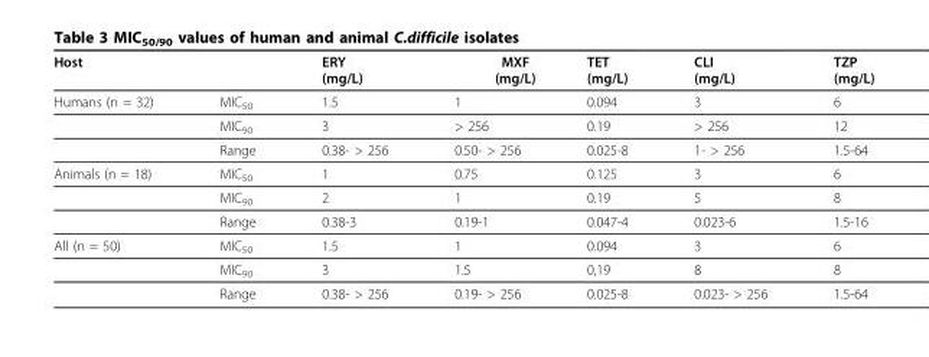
<table><thead><tr><td>Host</td><td></td><td>ERY (mg/L)</td><td>MXF (mg/L)</td><td>TET (mg/L)</td><td>CLI (mg/L)</td><td>TZP (mg/L)</td></tr></thead><tbody><tr><td rowspan="3">Humans (n = 32)</td><td>MIC<sub>50</sub></td><td>1.5</td><td>1</td><td>0.094</td><td>3</td><td>6</td></tr><tr><td>MIC<sub>90</sub></td><td>3</td><td>&gt; 256</td><td>0.19</td><td>&gt; 256</td><td>12</td></tr><tr><td>Range</td><td>0.38- &gt; 256</td><td>0.50- &gt; 256</td><td>0.025-8</td><td>1- &gt; 256</td><td>1.5-64</td></tr><tr><td rowspan="3">Animals (n = 18)</td><td>MIC<sub>50</sub></td><td>1</td><td>0.75</td><td>0.125</td><td>3</td><td>6</td></tr><tr><td>MIC<sub>90</sub></td><td>2</td><td>1</td><td>0.19</td><td>5</td><td>8</td></tr><tr><td>Range</td><td>0.38-3</td><td>0.19-1</td><td>0.047-4</td><td>0.023-6</td><td>1.5-16</td></tr><tr><td rowspan="3">All (n = 50)</td><td>MIC<sub>50</sub></td><td>1.5</td><td>1</td><td>0.094</td><td>3</td><td>6</td></tr><tr><td>MIC<sub>90</sub></td><td>3</td><td>1.5</td><td>0,19</td><td>8</td><td>8</td></tr><tr><td>Range</td><td>0.38- &gt; 256</td><td>0.19- &gt; 256</td><td>0.025-8</td><td>0.023- &gt; 256</td><td>1.5-64</td></tr></tbody></table>